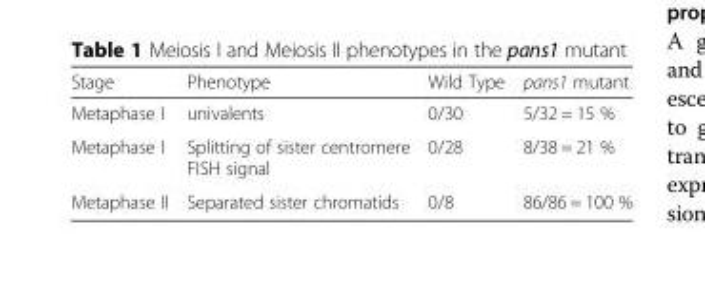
<table><thead><tr><td>Stage</td><td>Phenotype</td><td>Wild Type</td><td>pans1 mutant</td></tr></thead><tbody><tr><td>Metaphase I</td><td>univalents</td><td>0/30</td><td>5/32 = 15 %</td></tr><tr><td>Metaphase I</td><td>Splitting of sister centromere FISH signal</td><td>0/28</td><td>8/38 = 21 %</td></tr><tr><td>Metaphase II</td><td>Separated sister chromatids</td><td>0/8</td><td>86/86 = 100 %</td></tr></tbody></table>